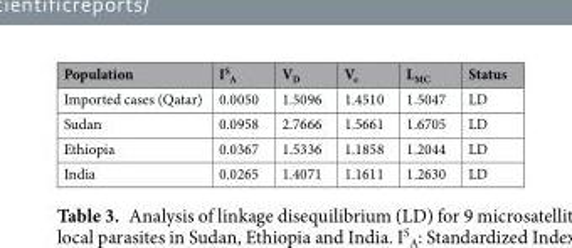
<table><thead><tr><td>Population</td><td>I<sup>S</sup> <sub>A</sub></td><td>V<sub>D</sub></td><td>V<sub>e</sub></td><td>L<sub>MC</sub></td><td>Status</td></tr></thead><tbody><tr><td>Imported cases (Qatar)</td><td>0.0050</td><td>1.5096</td><td>1.4510</td><td>1.5047</td><td>LD</td></tr><tr><td>Sudan</td><td>0.0958</td><td>2.7666</td><td>1.5661</td><td>1.6705</td><td>LD</td></tr><tr><td>Ethiopia</td><td>0.0367</td><td>1.5336</td><td>1.1858</td><td>1.2044</td><td>LD</td></tr><tr><td>India</td><td>0.0265</td><td>1.4071</td><td>1.1611</td><td>1.2630</td><td>LD</td></tr></tbody></table>